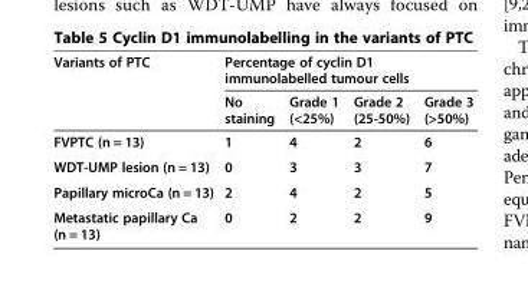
<table><thead><tr><td rowspan="2">Variants of PTC</td><td colspan="4">Percentage of cyclin D1 immunolabelled tumour cells</td></tr><tr><td>No staining</td><td>Grade 1 (&lt;25%)</td><td>Grade 2 (25-50%)</td><td>Grade 3 (&gt;50%)</td></tr></thead><tbody><tr><td>FVPTC (n = 13)</td><td>1</td><td>4</td><td>2</td><td>6</td></tr><tr><td>WDT-UMP lesion (n = 13)</td><td>0</td><td>3</td><td>3</td><td>7</td></tr><tr><td>Papillary microCa (n = 13)</td><td>2</td><td>4</td><td>2</td><td>5</td></tr><tr><td>Metastatic papillary Ca (n = 13)</td><td>0</td><td>2</td><td>2</td><td>9</td></tr></tbody></table>